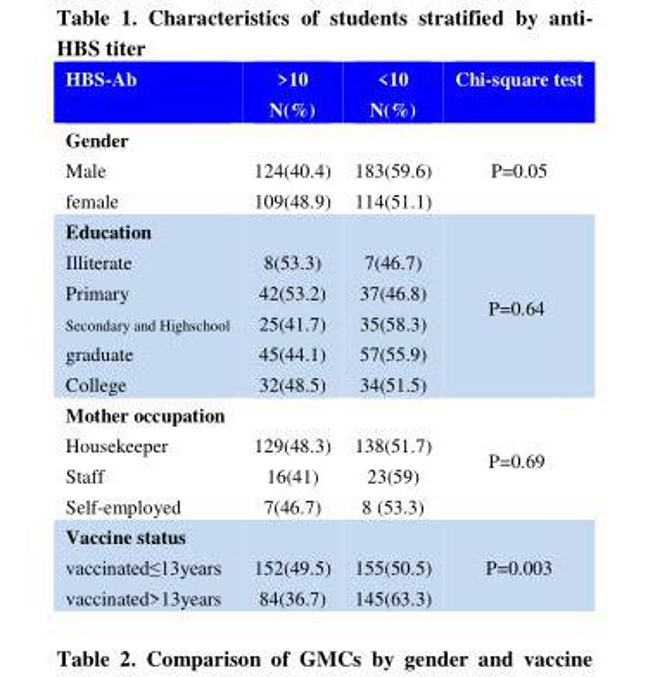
<table><thead><tr><td>HBS-Ab</td><td>&gt;10 N(%)</td><td>&lt;10 N(%)</td><td>Chi-square test</td></tr></thead><tbody><tr><td colspan="4">Gender</td></tr><tr><td>Male female</td><td>124(40.4) 109(48.9)</td><td>183(59.6) 114(51.1)</td><td>P=0.05</td></tr><tr><td colspan="4">Education</td></tr><tr><td>Illiterate Primary Secondary and Highschool graduate College</td><td>8(53.3) 42(53.2) 25(41.7) 45(44.1) 32(48.5)</td><td>7(46.7) 37(46.8) 35(58.3) 57(55.9) 34(51.5)</td><td>P=0.64</td></tr><tr><td colspan="4">Mother occupation</td></tr><tr><td>Housekeeper Staff Self-employed</td><td>129(48.3) 16(41) 7(46.7)</td><td>138(51.7) 23(59) 8 (53.3)</td><td>P=0.69</td></tr><tr><td colspan="4">Vaccine status</td></tr><tr><td>vaccinated≤13years vaccinated&gt;13years</td><td>152(49.5) 84(36.7)</td><td>155(50.5) 145(63.3)</td><td>P=0.003</td></tr></tbody></table>